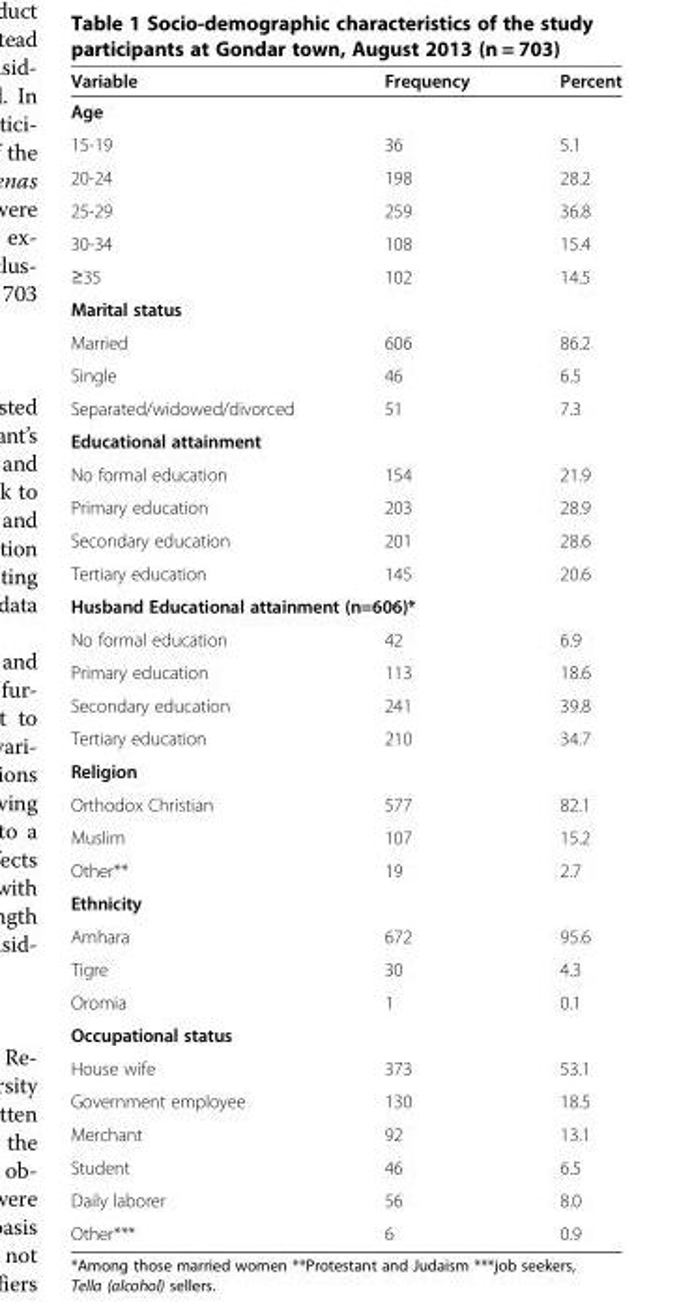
<table><thead><tr><td>Variable</td><td>Frequency</td><td>Percent</td></tr></thead><tbody><tr><td colspan="3">Age</td></tr><tr><td>15-19</td><td>36</td><td>5.1</td></tr><tr><td>20-24</td><td>198</td><td>28.2</td></tr><tr><td>25-29</td><td>259</td><td>36.8</td></tr><tr><td>30-34</td><td>108</td><td>15.4</td></tr><tr><td>≥35</td><td>102</td><td>14.5</td></tr><tr><td colspan="3">Marital status</td></tr><tr><td>Married</td><td>606</td><td>86.2</td></tr><tr><td>Single</td><td>46</td><td>6.5</td></tr><tr><td>Separated/widowed/divorced</td><td>51</td><td>7.3</td></tr><tr><td colspan="3">Educational attainment</td></tr><tr><td>No formal education</td><td>154</td><td>21.9</td></tr><tr><td>Primary education</td><td>203</td><td>28.9</td></tr><tr><td>Secondary education</td><td>201</td><td>28.6</td></tr><tr><td>Tertiary education</td><td>145</td><td>20.6</td></tr><tr><td colspan="3">Husband Educational attainment (n=606)*</td></tr><tr><td>No formal education</td><td>42</td><td>6.9</td></tr><tr><td>Primary education</td><td>113</td><td>18.6</td></tr><tr><td>Secondary education</td><td>241</td><td>39.8</td></tr><tr><td>Tertiary education</td><td>210</td><td>34.7</td></tr><tr><td colspan="3">Religion</td></tr><tr><td>Orthodox Christian</td><td>577</td><td>82.1</td></tr><tr><td>Muslim</td><td>107</td><td>15.2</td></tr><tr><td>Other**</td><td>19</td><td>2.7</td></tr><tr><td colspan="3">Ethnicity</td></tr><tr><td>Amhara</td><td>672</td><td>95.6</td></tr><tr><td>Tigre</td><td>30</td><td>4.3</td></tr><tr><td>Oromia</td><td>1</td><td>0.1</td></tr><tr><td colspan="3">Occupational status</td></tr><tr><td>House wife</td><td>373</td><td>53.1</td></tr><tr><td>Government employee</td><td>130</td><td>18.5</td></tr><tr><td>Merchant</td><td>92</td><td>13.1</td></tr><tr><td>Student</td><td>46</td><td>6.5</td></tr><tr><td>Daily laborer</td><td>56</td><td>8.0</td></tr><tr><td>Other***</td><td>6</td><td>0.9</td></tr></tbody></table>